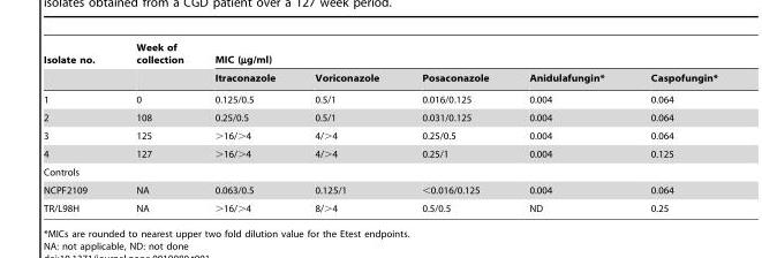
<table><thead><tr><td rowspan="2">Isolate no.</td><td rowspan="2">Week of collection</td><td colspan="5">MIC (µg/ml)</td></tr><tr><td>Itraconazole</td><td>Voriconazole</td><td>Posaconazole</td><td>Anidulafungin*</td><td>Caspofungin*</td></tr></thead><tbody><tr><td>1</td><td>0</td><td>0.125/0.5</td><td>0.5/1</td><td>0.016/0.125</td><td>0.004</td><td>0.064</td></tr><tr><td>2</td><td>108</td><td>0.25/0.5</td><td>0.5/1</td><td>0.031/0.125</td><td>0.004</td><td>0.064</td></tr><tr><td>3</td><td>125</td><td>&gt;16/&gt;4</td><td>4/&gt;4</td><td>0.25/0.5</td><td>0.004</td><td>0.064</td></tr><tr><td>4</td><td>127</td><td>&gt;16/&gt;4</td><td>4/&gt;4</td><td>0.25/1</td><td>0.004</td><td>0.125</td></tr><tr><td colspan="7">Controls</td></tr><tr><td>NCPF2109</td><td>NA</td><td>0.063/0.5</td><td>0.125/1</td><td>&lt;0.016/0.125</td><td>0.004</td><td>0.064</td></tr><tr><td>TR/L98H</td><td>NA</td><td>&gt;16/&gt;4</td><td>8/&gt;4</td><td>0.5/0.5</td><td>ND</td><td>0.25</td></tr></tbody></table>